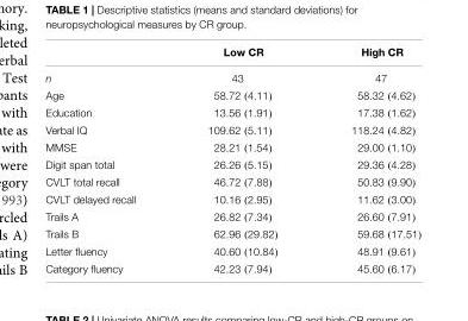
<table><thead><tr><td></td><td>Low CR</td><td>High CR</td></tr></thead><tbody><tr><td>n</td><td>43</td><td>47</td></tr><tr><td>Age</td><td>58.72 (4.11)</td><td>58.32 (4.62)</td></tr><tr><td>Education</td><td>13.56 (1.91)</td><td>17.38 (1.62)</td></tr><tr><td>Verbal IQ</td><td>109.62 (5.11)</td><td>118.24 (4.82)</td></tr><tr><td>MMSE</td><td>28.21 (1.54)</td><td>29.00 (1.10)</td></tr><tr><td>Digit span total</td><td>26.26 (5.15)</td><td>29.36 (4.28)</td></tr><tr><td>CVLT total recall</td><td>46.72 (7.88)</td><td>50.83 (9.90)</td></tr><tr><td>CVLT delayed recall</td><td>10.16 (2.95)</td><td>11.62 (3.00)</td></tr><tr><td>Trails A</td><td>26.82 (7.34)</td><td>26.60 (7.91)</td></tr><tr><td>Trails B</td><td>62.96 (29.82)</td><td>59.68 (17.51)</td></tr><tr><td>Letter fluency</td><td>40.60 (10.84)</td><td>48.91 (9.61)</td></tr><tr><td>Category fluency</td><td>42.23 (7.94)</td><td>45.60 (6.17)</td></tr></tbody></table>